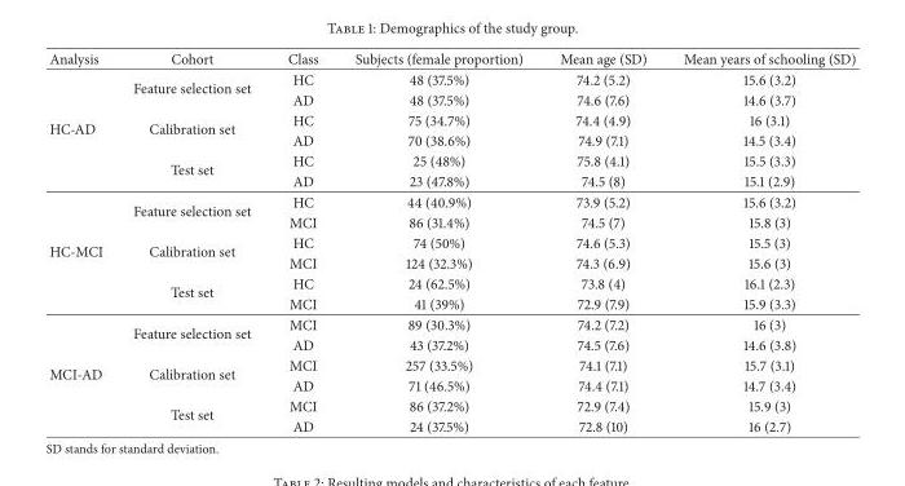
<table><thead><tr><td>Analysis</td><td>Cohort</td><td>Class</td><td>Subjects (female proportion)</td><td>Mean age (SD)</td><td>Mean years of schooling (SD)</td></tr></thead><tbody><tr><td rowspan="6">HC-AD</td><td rowspan="2">Feature selection set</td><td>HC</td><td>48 (37.5%)</td><td>74.2 (5.2)</td><td>15.6 (3.2)</td></tr><tr><td>AD</td><td>48 (37.5%)</td><td>74.6 (7.6)</td><td>14.6 (3.7)</td></tr><tr><td rowspan="2">Calibration set</td><td>HC</td><td>75 (34.7%)</td><td>74.4 (4.9)</td><td>16 (3.1)</td></tr><tr><td>AD</td><td>70 (38.6%)</td><td>74.9 (7.1)</td><td>14.5 (3.4)</td></tr><tr><td rowspan="2">Test set</td><td>HC</td><td>25 (48%)</td><td>75.8 (4.1)</td><td>15.5 (3.3)</td></tr><tr><td>AD</td><td>23 (47.8%)</td><td>74.5 (8)</td><td>15.1 (2.9)</td></tr><tr><td rowspan="6">HC-MCI</td><td rowspan="2">Feature selection set</td><td>HC</td><td>44 (40.9%)</td><td>73.9 (5.2)</td><td>15.6 (3.2)</td></tr><tr><td>MCI</td><td>86 (31.4%)</td><td>74.5 (7)</td><td>15.8 (3)</td></tr><tr><td rowspan="2">Calibration set</td><td>HC</td><td>74 (50%)</td><td>74.6 (5.3)</td><td>15.5 (3)</td></tr><tr><td>MCI</td><td>124 (32.3%)</td><td>74.3 (6.9)</td><td>15.6 (3)</td></tr><tr><td rowspan="2">Test set</td><td>HC</td><td>24 (62.5%)</td><td>73.8 (4)</td><td>16.1 (2.3)</td></tr><tr><td>MCI</td><td>41 (39%)</td><td>72.9 (7.9)</td><td>15.9 (3.3)</td></tr><tr><td rowspan="6">MCI-AD</td><td rowspan="2">Feature selection set</td><td>MCI</td><td>89 (30.3%)</td><td>74.2 (7.2)</td><td>16 (3)</td></tr><tr><td>AD</td><td>43 (37.2%)</td><td>74.5 (7.6)</td><td>14.6 (3.8)</td></tr><tr><td rowspan="2">Calibration set</td><td>MCI</td><td>257 (33.5%)</td><td>74.1 (7.1)</td><td>15.7 (3.1)</td></tr><tr><td>AD</td><td>71 (46.5%)</td><td>74.4 (7.1)</td><td>14.7 (3.4)</td></tr><tr><td rowspan="2">Test set</td><td>MCI</td><td>86 (37.2%)</td><td>72.9 (7.4)</td><td>15.9 (3)</td></tr><tr><td>AD</td><td>24 (37.5%)</td><td>72.8 (10)</td><td>16 (2.7)</td></tr></tbody></table>